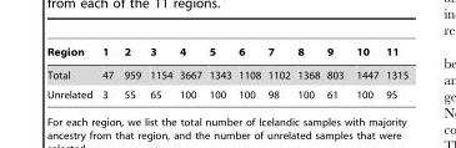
<table><thead><tr><td>Region</td><td>1</td><td>2</td><td>3</td><td>4</td><td>5</td><td>6</td><td>7</td><td>8</td><td>9</td><td>10</td><td>11</td></tr></thead><tbody><tr><td>Total</td><td>47</td><td>959</td><td>1154</td><td>3667</td><td>1343</td><td>1108</td><td>1102</td><td>1368</td><td>803</td><td>1447</td><td>1315</td></tr><tr><td>Unrelated</td><td>3</td><td>55</td><td>65</td><td>100</td><td>100</td><td>100</td><td>98</td><td>100</td><td>61</td><td>100</td><td>95</td></tr></tbody></table>